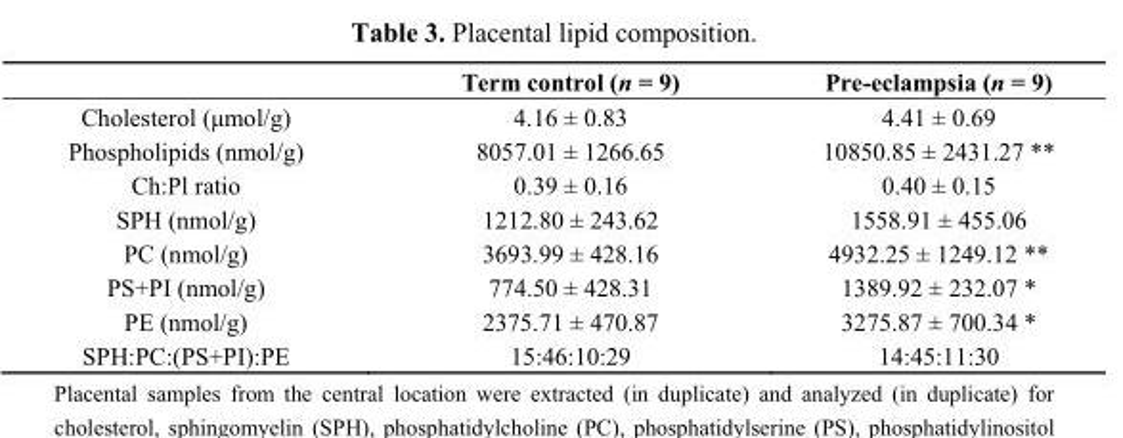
<table><thead><tr><td></td><td>Term control (n = 9)</td><td>Pre-eclampsia (n = 9)</td></tr></thead><tbody><tr><td>Cholesterol (μmol/g)</td><td>4.16 ± 0.83</td><td>4.41 ± 0.69</td></tr><tr><td>Phospholipids (nmol/g)</td><td>8057.01 ± 1266.65</td><td>10850.85 ± 2431.27 **</td></tr><tr><td>Ch:Pl ratio</td><td>0.39 ± 0.16</td><td>0.40 ± 0.15</td></tr><tr><td>SPH (nmol/g)</td><td>1212.80 ± 243.62</td><td>1558.91 ± 455.06</td></tr><tr><td>PC (nmol/g)</td><td>3693.99 ± 428.16</td><td>4932.25 ± 1249.12 **</td></tr><tr><td>PS+PI (nmol/g)</td><td>774.50 ± 428.31</td><td>1389.92 ± 232.07 *</td></tr><tr><td>PE (nmol/g)</td><td>2375.71 ± 470.87</td><td>3275.87 ± 700.34 *</td></tr><tr><td>SPH:PC:(PS+PI):PE</td><td>15:46:10:29</td><td>14:45:11:30</td></tr></tbody></table>